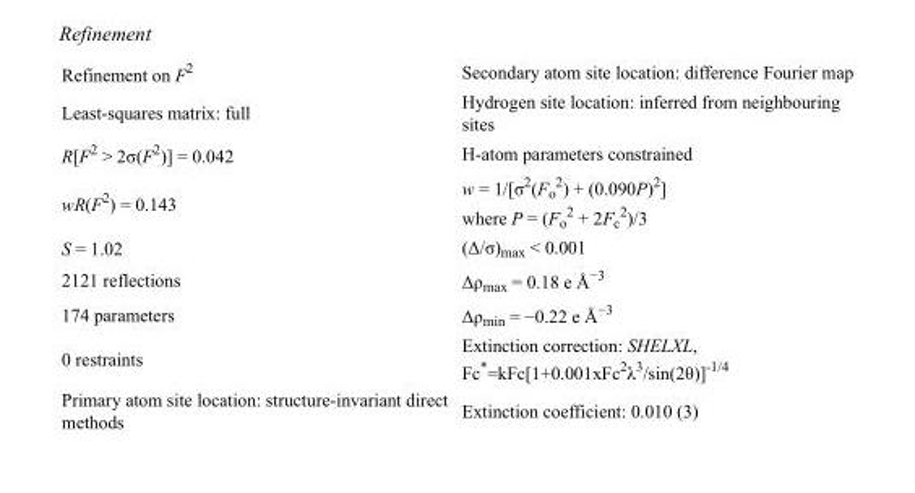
<table><tbody><tr><td>Refinement on F<sup>2</sup></td><td>Secondary atom site location: difference Fourier map</td></tr><tr><td>Least-squares matrix: full</td><td>Hydrogen site location: inferred from neighbouring sites</td></tr><tr><td>R[F<sup>2</sup> &gt; 2σ(F<sup>2</sup>)] = 0.042</td><td>H-atom parameters constrained</td></tr><tr><td>wR(F<sup>2</sup>) = 0.143</td><td>w = 1/[σ<sup>2</sup>(F<sub>o</sub> <sup>2</sup>) + (0.090P)<sup>2</sup>] where P = (F<sub>o</sub> <sup>2</sup> + 2F<sub>c</sub> <sup>2</sup>)/3</td></tr><tr><td>S = 1.02</td><td>(Δ/σ)<sub>max</sub> &lt; 0.001</td></tr><tr><td>2121 reflections</td><td>Δρ<sub>max</sub> = 0.18 e Å<sup>−3</sup></td></tr><tr><td>174 parameters</td><td>Δρ<sub>min</sub> = −0.22 e Å<sup>−3</sup></td></tr><tr><td>0 restraints</td><td>Extinction correction: SHELXL, Fc*=kFc[1+0.001xFc<sup>2</sup>λ<sup>3</sup>/sin(2θ)]<sup>-1/4</sup></td></tr><tr><td>Primary atom site location: structure-invariant direct methods</td><td>Extinction coefficient: 0.010 (3)</td></tr></tbody></table>